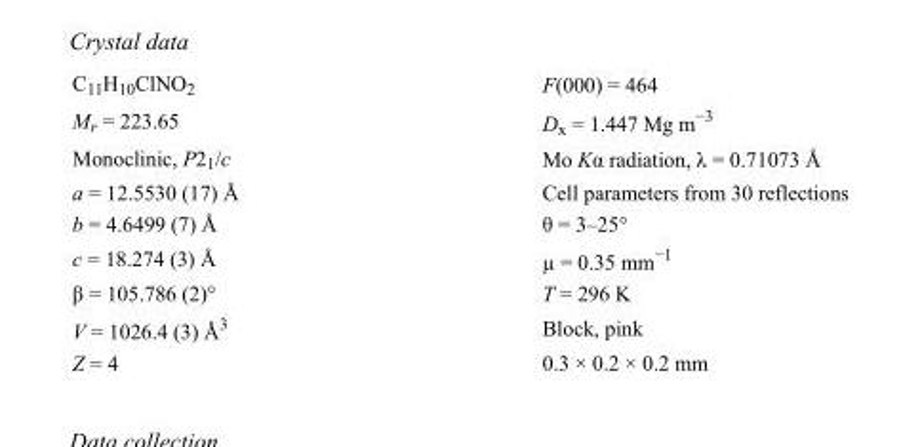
<table><tbody><tr><td>C<sub>11</sub>H<sub>10</sub>ClNO<sub>2</sub></td><td>F(000) = 464</td></tr><tr><td>M<sub>r</sub> = 223.65</td><td>D<sub>x</sub> = 1.447 Mg m<sup>−3</sup></td></tr><tr><td>Monoclinic, P2<sub>1</sub>/c</td><td>Mo Kα radiation, λ = 0.71073 Å</td></tr><tr><td>a = 12.5530 (17) Å</td><td>Cell parameters from 30 reflections</td></tr><tr><td>b = 4.6499 (7) Å</td><td>θ = 3–25°</td></tr><tr><td>c = 18.274 (3) Å</td><td>µ = 0.35 mm<sup>−1</sup></td></tr><tr><td>β = 105.786 (2)°</td><td>T = 296 K</td></tr><tr><td>V = 1026.4 (3) Å<sup>3</sup></td><td>Block, pink</td></tr><tr><td>Z = 4</td><td>0.3 × 0.2 × 0.2 mm</td></tr></tbody></table>